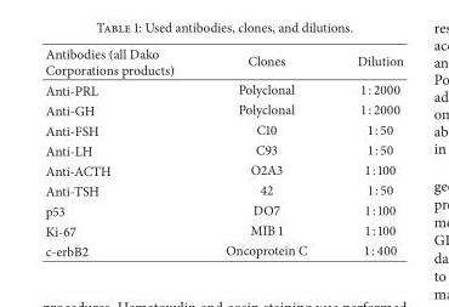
<table><thead><tr><td>Antibodies (all Dako Corporations products)</td><td>Clones</td><td>Dilution</td></tr></thead><tbody><tr><td>Anti-PRL</td><td>Polyclonal</td><td>1 : 2000</td></tr><tr><td>Anti-GH</td><td>Polyclonal</td><td>1 : 2000</td></tr><tr><td>Anti-FSH</td><td>C10</td><td>1 : 50</td></tr><tr><td>Anti-LH</td><td>C93</td><td>1 : 50</td></tr><tr><td>Anti-ACTH</td><td>O2A3</td><td>1 : 100</td></tr><tr><td>Anti-TSH</td><td>42</td><td>1 : 50</td></tr><tr><td>p53</td><td>DO7</td><td>1 : 100</td></tr><tr><td>Ki-67</td><td>MIB 1</td><td>1 : 100</td></tr><tr><td>c-erbB2</td><td>Oncoprotein C</td><td>1 : 400</td></tr></tbody></table>